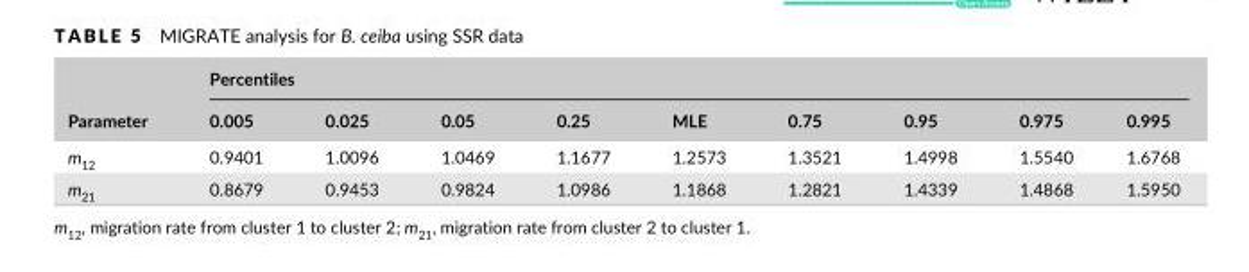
<table><thead><tr><td rowspan="2">Parameter</td><td colspan="9">Percentiles</td></tr><tr><td>0.005</td><td>0.025</td><td>0.05</td><td>0.25</td><td>MLE</td><td>0.75</td><td>0.95</td><td>0.975</td><td>0.995</td></tr></thead><tbody><tr><td>m<sub>12</sub></td><td>0.9401</td><td>1.0096</td><td>1.0469</td><td>1.1677</td><td>1.2573</td><td>1.3521</td><td>1.4998</td><td>1.5540</td><td>1.6768</td></tr><tr><td>m<sub>21</sub></td><td>0.8679</td><td>0.9453</td><td>0.9824</td><td>1.0986</td><td>1.1868</td><td>1.2821</td><td>1.4339</td><td>1.4868</td><td>1.5950</td></tr></tbody></table>